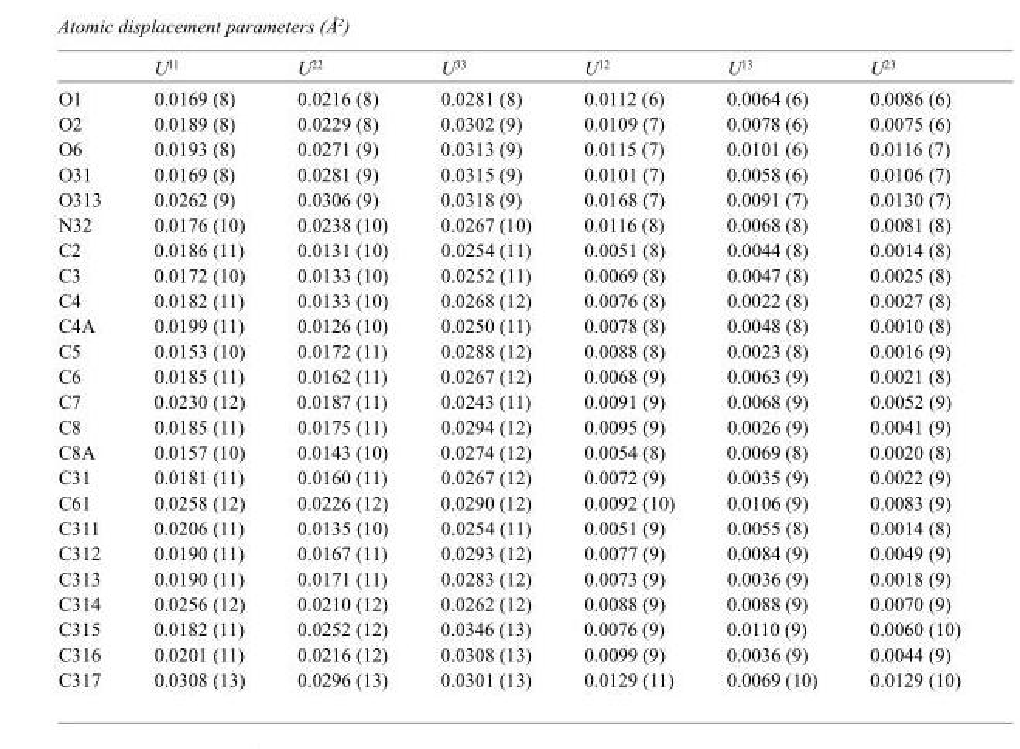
<table><thead><tr><td></td><td>U<sup>11</sup></td><td>U<sup>22</sup></td><td>U<sup>33</sup></td><td>U<sup>12</sup></td><td>U<sup>13</sup></td><td>U<sup>23</sup></td></tr></thead><tbody><tr><td>O1</td><td>0.0169 (8)</td><td>0.0216 (8)</td><td>0.0281 (8)</td><td>0.0112 (6)</td><td>0.0064 (6)</td><td>0.0086 (6)</td></tr><tr><td>O2</td><td>0.0189 (8)</td><td>0.0229 (8)</td><td>0.0302 (9)</td><td>0.0109 (7)</td><td>0.0078 (6)</td><td>0.0075 (6)</td></tr><tr><td>O6</td><td>0.0193 (8)</td><td>0.0271 (9)</td><td>0.0313 (9)</td><td>0.0115 (7)</td><td>0.0101 (6)</td><td>0.0116 (7)</td></tr><tr><td>O31</td><td>0.0169 (8)</td><td>0.0281 (9)</td><td>0.0315 (9)</td><td>0.0101 (7)</td><td>0.0058 (6)</td><td>0.0106 (7)</td></tr><tr><td>O313</td><td>0.0262 (9)</td><td>0.0306 (9)</td><td>0.0318 (9)</td><td>0.0168 (7)</td><td>0.0091 (7)</td><td>0.0130 (7)</td></tr><tr><td>N32</td><td>0.0176 (10)</td><td>0.0238 (10)</td><td>0.0267 (10)</td><td>0.0116 (8)</td><td>0.0068 (8)</td><td>0.0081 (8)</td></tr><tr><td>C2</td><td>0.0186 (11)</td><td>0.0131 (10)</td><td>0.0254 (11)</td><td>0.0051 (8)</td><td>0.0044 (8)</td><td>0.0014 (8)</td></tr><tr><td>C3</td><td>0.0172 (10)</td><td>0.0133 (10)</td><td>0.0252 (11)</td><td>0.0069 (8)</td><td>0.0047 (8)</td><td>0.0025 (8)</td></tr><tr><td>C4</td><td>0.0182 (11)</td><td>0.0133 (10)</td><td>0.0268 (12)</td><td>0.0076 (8)</td><td>0.0022 (8)</td><td>0.0027 (8)</td></tr><tr><td>C4A</td><td>0.0199 (11)</td><td>0.0126 (10)</td><td>0.0250 (11)</td><td>0.0078 (8)</td><td>0.0048 (8)</td><td>0.0010 (8)</td></tr><tr><td>C5</td><td>0.0153 (10)</td><td>0.0172 (11)</td><td>0.0288 (12)</td><td>0.0088 (8)</td><td>0.0023 (8)</td><td>0.0016 (9)</td></tr><tr><td>C6</td><td>0.0185 (11)</td><td>0.0162 (11)</td><td>0.0267 (12)</td><td>0.0068 (9)</td><td>0.0063 (9)</td><td>0.0021 (8)</td></tr><tr><td>C7</td><td>0.0230 (12)</td><td>0.0187 (11)</td><td>0.0243 (11)</td><td>0.0091 (9)</td><td>0.0068 (9)</td><td>0.0052 (9)</td></tr><tr><td>C8</td><td>0.0185 (11)</td><td>0.0175 (11)</td><td>0.0294 (12)</td><td>0.0095 (9)</td><td>0.0026 (9)</td><td>0.0041 (9)</td></tr><tr><td>C8A</td><td>0.0157 (10)</td><td>0.0143 (10)</td><td>0.0274 (12)</td><td>0.0054 (8)</td><td>0.0069 (8)</td><td>0.0020 (8)</td></tr><tr><td>C31</td><td>0.0181 (11)</td><td>0.0160 (11)</td><td>0.0267 (12)</td><td>0.0072 (9)</td><td>0.0035 (9)</td><td>0.0022 (9)</td></tr><tr><td>C61</td><td>0.0258 (12)</td><td>0.0226 (12)</td><td>0.0290 (12)</td><td>0.0092 (10)</td><td>0.0106 (9)</td><td>0.0083 (9)</td></tr><tr><td>C311</td><td>0.0206 (11)</td><td>0.0135 (10)</td><td>0.0254 (11)</td><td>0.0051 (9)</td><td>0.0055 (8)</td><td>0.0014 (8)</td></tr><tr><td>C312</td><td>0.0190 (11)</td><td>0.0167 (11)</td><td>0.0293 (12)</td><td>0.0077 (9)</td><td>0.0084 (9)</td><td>0.0049 (9)</td></tr><tr><td>C313</td><td>0.0190 (11)</td><td>0.0171 (11)</td><td>0.0283 (12)</td><td>0.0073 (9)</td><td>0.0036 (9)</td><td>0.0018 (9)</td></tr><tr><td>C314</td><td>0.0256 (12)</td><td>0.0210 (12)</td><td>0.0262 (12)</td><td>0.0088 (9)</td><td>0.0088 (9)</td><td>0.0070 (9)</td></tr><tr><td>C315</td><td>0.0182 (11)</td><td>0.0252 (12)</td><td>0.0346 (13)</td><td>0.0076 (9)</td><td>0.0110 (9)</td><td>0.0060 (10)</td></tr><tr><td>C316</td><td>0.0201 (11)</td><td>0.0216 (12)</td><td>0.0308 (13)</td><td>0.0099 (9)</td><td>0.0036 (9)</td><td>0.0044 (9)</td></tr><tr><td>C317</td><td>0.0308 (13)</td><td>0.0296 (13)</td><td>0.0301 (13)</td><td>0.0129 (11)</td><td>0.0069 (10)</td><td>0.0129 (10)</td></tr></tbody></table>